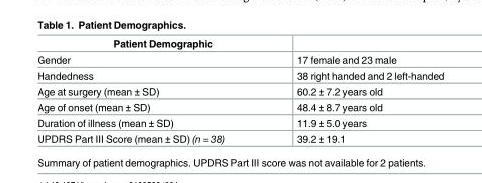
<table><thead><tr><td>Patient Demographic</td><td></td></tr></thead><tbody><tr><td>Gender</td><td>17 female and 23 male</td></tr><tr><td>Handedness</td><td>38 right handed and 2 left-handed</td></tr><tr><td>Age at surgery (mean ± SD)</td><td>60.2 ± 7.2 years old</td></tr><tr><td>Age of onset (mean ± SD)</td><td>48.4 ± 8.7 years old</td></tr><tr><td>Duration of illness (mean ± SD)</td><td>11.9 ± 5.0 years</td></tr><tr><td>UPDRS Part III Score (mean ± SD) (n = 38)</td><td>39.2 ± 19.1</td></tr></tbody></table>